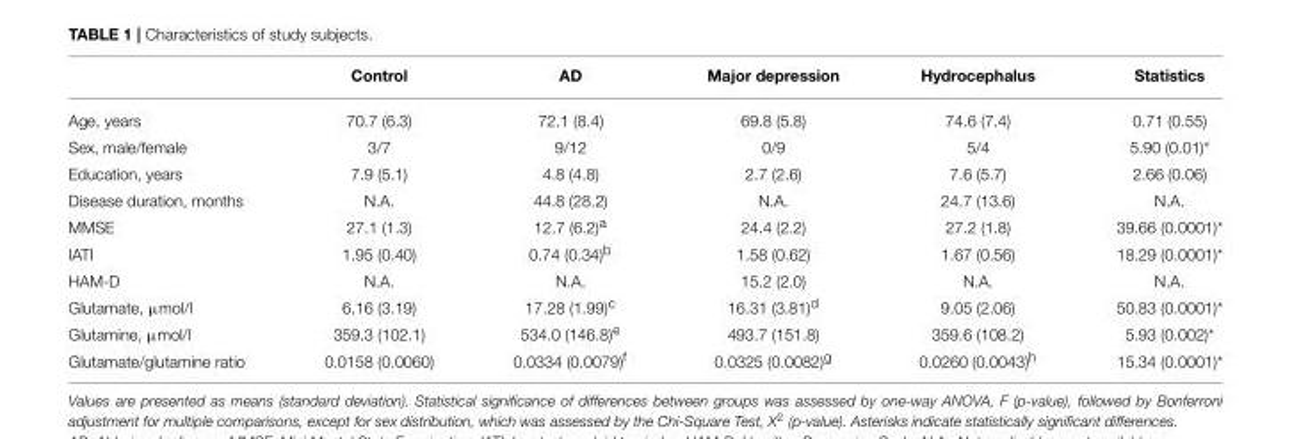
<table><thead><tr><td></td><td>Control</td><td>AD</td><td>Major depression</td><td>Hydrocephalus</td><td>Statistics</td></tr></thead><tbody><tr><td>Age, years</td><td>70.7 (6.3)</td><td>72.1 (8.4)</td><td>69.8 (5.8)</td><td>74.6 (7.4)</td><td>0.71 (0.55)</td></tr><tr><td>Sex, male/female</td><td>3/7</td><td>9/12</td><td>0/9</td><td>5/4</td><td>5.90 (0.01)*</td></tr><tr><td>Education, years</td><td>7.9 (5.1)</td><td>4.8 (4.8)</td><td>2.7 (2.6)</td><td>7.6 (5.7)</td><td>2.66 (0.06)</td></tr><tr><td>Disease duration, months</td><td>N.A.</td><td>44.8 (28.2)</td><td>N.A.</td><td>24.7 (13.6)</td><td>N.A.</td></tr><tr><td>MMSE</td><td>27.1 (1.3)</td><td>12.7 (6.2)<sup>a</sup></td><td>24.4 (2.2)</td><td>27.2 (1.8)</td><td>39.66 (0.0001)*</td></tr><tr><td>IATI</td><td>1.95 (0.40)</td><td>0.74 (0.34)<sup>b</sup></td><td>1.58 (0.62)</td><td>1.67 (0.56)</td><td>18.29 (0.0001)*</td></tr><tr><td>HAM-D</td><td>N.A.</td><td>N.A.</td><td>15.2 (2.0)</td><td>N.A.</td><td>N.A.</td></tr><tr><td>Glutamate, µmol/l</td><td>6.16 (3.19)</td><td>17.28 (1.99)<sup>c</sup></td><td>16.31 (3.81)<sup>d</sup></td><td>9.05 (2.06)</td><td>50.83 (0.0001)*</td></tr><tr><td>Glutamine, µmol/l</td><td>359.3 (102.1)</td><td>534.0 (146.8)<sup>e</sup></td><td>493.7 (151.8)</td><td>359.6 (108.2)</td><td>5.93 (0.002)*</td></tr><tr><td>Glutamate/glutamine ratio</td><td>0.0158 (0.0060)</td><td>0.0334 (0.0079)<sup>f</sup></td><td>0.0325 (0.0082)<sup>g</sup></td><td>0.0260 (0.0043)<sup>h</sup></td><td>15.34 (0.0001)*</td></tr></tbody></table>